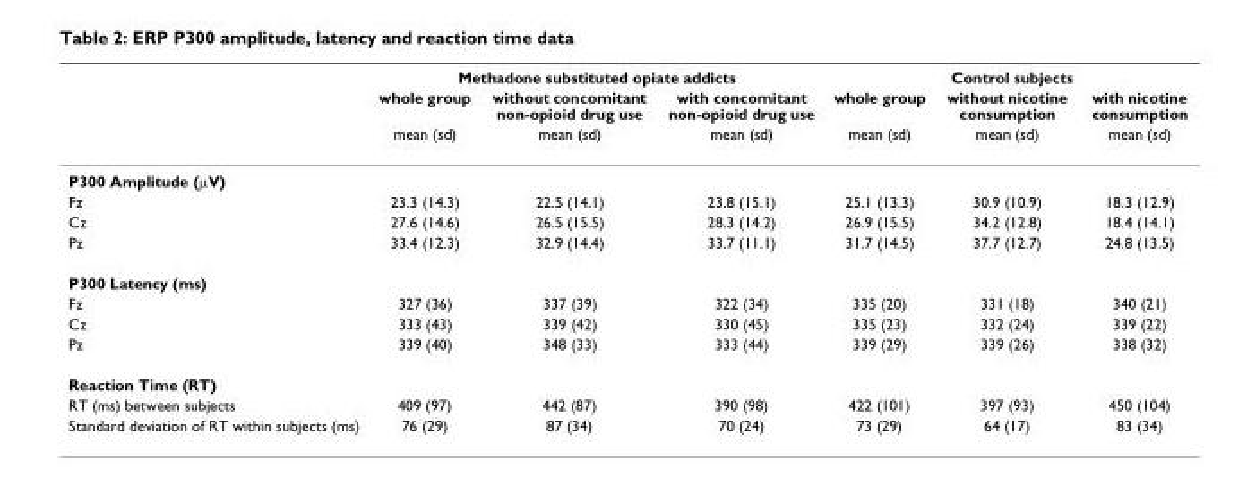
<table><thead><tr><td rowspan="3"></td><td colspan="3">Methadone substituted opiate addicts</td><td colspan="3">Control subjects</td></tr><tr><td rowspan="2">whole group mean (sd)</td><td rowspan="2">without concomitant non-opioid drug use mean (sd)</td><td rowspan="2">with concomitant non-opioid drug use mean (sd)</td><td rowspan="2">whole group mean (sd)</td><td rowspan="2">without nicotine consumption mean (sd)</td><td rowspan="2">with nicotine consumption mean (sd)</td></tr><tr></tr></thead><tbody><tr><td colspan="7">P300 Amplitude (µV)</td></tr><tr><td>Fz</td><td>23.3 (14.3)</td><td>22.5 (14.1)</td><td>23.8 (15.1)</td><td>25.1 (13.3)</td><td>30.9 (10.9)</td><td>18.3 (12.9)</td></tr><tr><td>Cz</td><td>27.6 (14.6)</td><td>26.5 (15.5)</td><td>28.3 (14.2)</td><td>26.9 (15.5)</td><td>34.2 (12.8)</td><td>18.4 (14.1)</td></tr><tr><td>Pz</td><td>33.4 (12.3)</td><td>32.9 (14.4)</td><td>33.7 (11.1)</td><td>31.7 (14.5)</td><td>37.7 (12.7)</td><td>24.8 (13.5)</td></tr><tr><td colspan="7">P300 Latency (ms)</td></tr><tr><td>Fz</td><td>327 (36)</td><td>337 (39)</td><td>322 (34)</td><td>335 (20)</td><td>331 (18)</td><td>340 (21)</td></tr><tr><td>Cz</td><td>333 (43)</td><td>339 (42)</td><td>330 (45)</td><td>335 (23)</td><td>332 (24)</td><td>339 (22)</td></tr><tr><td>Pz</td><td>339 (40)</td><td>348 (33)</td><td>333 (44)</td><td>339 (29)</td><td>339 (26)</td><td>338 (32)</td></tr><tr><td colspan="7">Reaction Time (RT)</td></tr><tr><td>RT (ms) between subjects</td><td>409 (97)</td><td>442 (87)</td><td>390 (98)</td><td>422 (101)</td><td>397 (93)</td><td>450 (104)</td></tr><tr><td>Standard deviation of RT within subjects (ms)</td><td>76 (29)</td><td>87 (34)</td><td>70 (24)</td><td>73 (29)</td><td>64 (17)</td><td>83 (34)</td></tr></tbody></table>